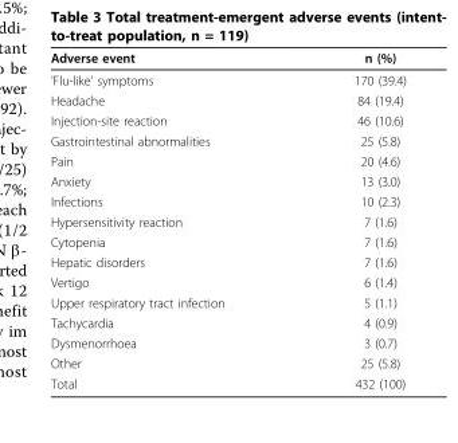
<table><thead><tr><td>Adverse event</td><td>n (%)</td></tr></thead><tbody><tr><td>’Flu-like’ symptoms</td><td>170 (39.4)</td></tr><tr><td>Headache</td><td>84 (19.4)</td></tr><tr><td>Injection-site reaction</td><td>46 (10.6)</td></tr><tr><td>Gastrointestinal abnormalities</td><td>25 (5.8)</td></tr><tr><td>Pain</td><td>20 (4.6)</td></tr><tr><td>Anxiety</td><td>13 (3.0)</td></tr><tr><td>Infections</td><td>10 (2.3)</td></tr><tr><td>Hypersensitivity reaction</td><td>7 (1.6)</td></tr><tr><td>Cytopenia</td><td>7 (1.6)</td></tr><tr><td>Hepatic disorders</td><td>7 (1.6)</td></tr><tr><td>Vertigo</td><td>6 (1.4)</td></tr><tr><td>Upper respiratory tract infection</td><td>5 (1.1)</td></tr><tr><td>Tachycardia</td><td>4 (0.9)</td></tr><tr><td>Dysmenorrhoea</td><td>3 (0.7)</td></tr><tr><td>Other</td><td>25 (5.8)</td></tr><tr><td>Total</td><td>432 (100)</td></tr></tbody></table>